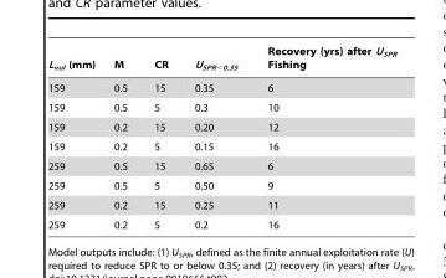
<table><thead><tr><td>L<sub>vul</sub> (mm)</td><td>M</td><td>CR</td><td>U<sub>SPR&lt;0.35</sub></td><td>Recovery (yrs) after U<sub>SPR</sub> Fishing</td></tr></thead><tbody><tr><td>159</td><td>0.5</td><td>15</td><td>0.35</td><td>6</td></tr><tr><td>159</td><td>0.5</td><td>5</td><td>0.3</td><td>10</td></tr><tr><td>159</td><td>0.2</td><td>15</td><td>0.20</td><td>12</td></tr><tr><td>159</td><td>0.2</td><td>5</td><td>0.15</td><td>16</td></tr><tr><td>259</td><td>0.5</td><td>15</td><td>0.65</td><td>6</td></tr><tr><td>259</td><td>0.5</td><td>5</td><td>0.50</td><td>9</td></tr><tr><td>259</td><td>0.2</td><td>15</td><td>0.25</td><td>11</td></tr><tr><td>259</td><td>0.2</td><td>5</td><td>0.2</td><td>16</td></tr></tbody></table>